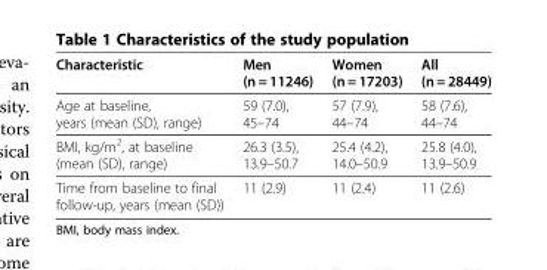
<table><thead><tr><td>Characteristic</td><td>Men (n = 11246)</td><td>Women (n = 17203)</td><td>All (n = 28449)</td></tr></thead><tbody><tr><td>Age at baseline, years (mean (SD), range)</td><td>59 (7.0), 45–74</td><td>57 (7.9), 44–74</td><td>58 (7.6), 44–74</td></tr><tr><td>BMI, kg/m<sup>2</sup>, at baseline (mean (SD), range)</td><td>26.3 (3.5), 13.9–50.7</td><td>25.4 (4.2), 14.0–50.9</td><td>25.8 (4.0), 13.9–50.9</td></tr><tr><td>Time from baseline to final follow-up, years (mean (SD))</td><td>11 (2.9)</td><td>11 (2.4)</td><td>11 (2.6)</td></tr></tbody></table>